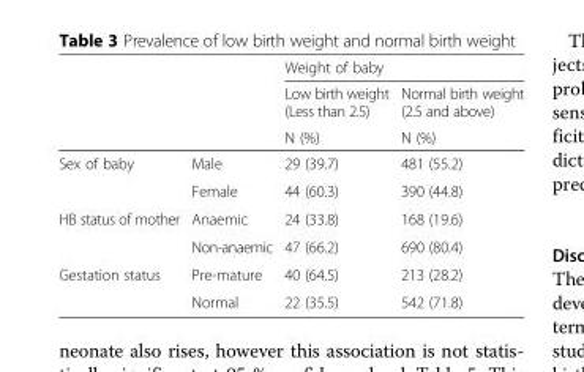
<table><thead><tr><td rowspan="3"></td><td rowspan="3"></td><td colspan="2">Weight of baby</td></tr><tr><td rowspan="2">Low birth weight (Less than 2.5) N (%)</td><td rowspan="2">Normal birth weight (2.5 and above) N (%)</td></tr><tr></tr></thead><tbody><tr><td rowspan="2">Sex of baby</td><td>Male</td><td>29 (39.7)</td><td>481 (55.2)</td></tr><tr><td>Female</td><td>44 (60.3)</td><td>390 (44.8)</td></tr><tr><td rowspan="2">HB status of mother</td><td>Anaemic</td><td>24 (33.8)</td><td>168 (19.6)</td></tr><tr><td>Non-anaemic</td><td>47 (66.2)</td><td>690 (80.4)</td></tr><tr><td rowspan="2">Gestation status</td><td>Pre-mature</td><td>40 (64.5)</td><td>213 (28.2)</td></tr><tr><td>Normal</td><td>22 (35.5)</td><td>542 (71.8)</td></tr></tbody></table>